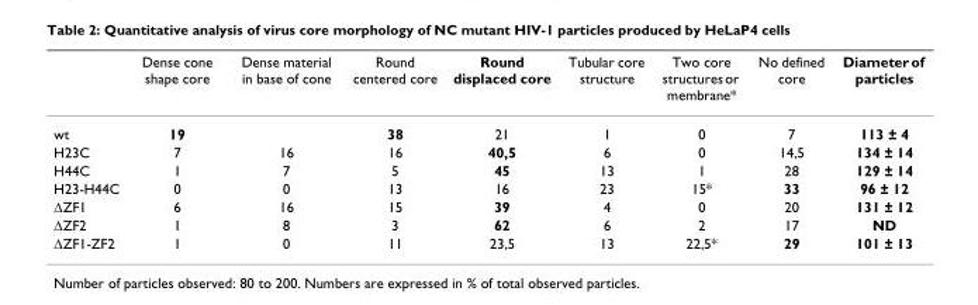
<table><thead><tr><td></td><td>Dense cone shape core</td><td>Dense material in base of cone</td><td>Round centered core</td><td>Round displaced core</td><td>Tubular core structure</td><td>Two core structures or membrane*</td><td>No defined core</td><td>Diameter of particles</td></tr></thead><tbody><tr><td>wt</td><td>19</td><td></td><td>38</td><td>21</td><td>1</td><td>0</td><td>7</td><td>113 ± 4</td></tr><tr><td>H23C</td><td>7</td><td>16</td><td>16</td><td>40,5</td><td>6</td><td>0</td><td>14,5</td><td>134 ± 14</td></tr><tr><td>H44C</td><td>1</td><td>7</td><td>5</td><td>45</td><td>13</td><td>1</td><td>28</td><td>129 ± 14</td></tr><tr><td>H23-H44C</td><td>0</td><td>0</td><td>13</td><td>16</td><td>23</td><td>15*</td><td>33</td><td>96 ± 12</td></tr><tr><td>ΔZF1</td><td>6</td><td>16</td><td>15</td><td>39</td><td>4</td><td>0</td><td>20</td><td>131 ± 12</td></tr><tr><td>ΔZF2</td><td>1</td><td>8</td><td>3</td><td>62</td><td>6</td><td>2</td><td>17</td><td>ND</td></tr><tr><td>ΔZF1-ZF2</td><td>1</td><td>0</td><td>11</td><td>23,5</td><td>13</td><td>22,5*</td><td>29</td><td>101 ± 13</td></tr></tbody></table>